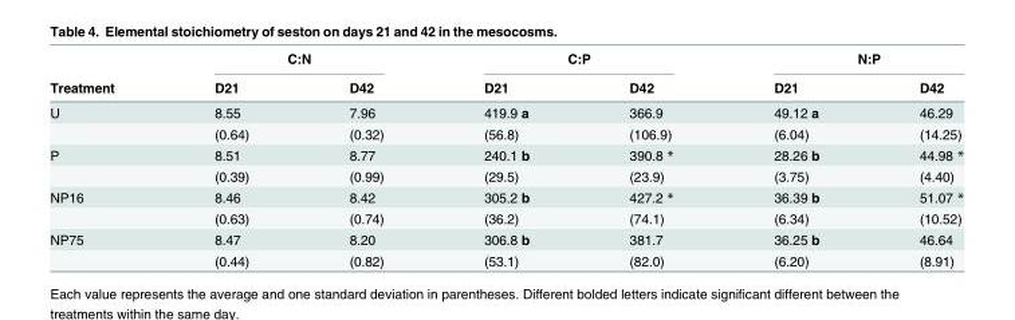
<table><thead><tr><td rowspan="2">Treatment</td><td colspan="2">C:N</td><td colspan="2">C:P</td><td colspan="2">N:P</td></tr><tr><td>D21</td><td>D42</td><td>D21</td><td>D42</td><td>D21</td><td>D42</td></tr></thead><tbody><tr><td rowspan="2">U</td><td>8.55</td><td>7.96</td><td>419.9 a</td><td>366.9</td><td>49.12 a</td><td>46.29</td></tr><tr><td>(0.64)</td><td>(0.32)</td><td>(56.8)</td><td>(106.9)</td><td>(6.04)</td><td>(14.25)</td></tr><tr><td rowspan="2">P</td><td>8.51</td><td>8.77</td><td>240.1 b</td><td>390.8 *</td><td>28.26 b</td><td>44.98 *</td></tr><tr><td>(0.39)</td><td>(0.99)</td><td>(29.5)</td><td>(23.9)</td><td>(3.75)</td><td>(4.40)</td></tr><tr><td rowspan="2">NP16</td><td>8.46</td><td>8.42</td><td>305.2 b</td><td>427.2 *</td><td>36.39 b</td><td>51.07 *</td></tr><tr><td>(0.63)</td><td>(0.74)</td><td>(36.2)</td><td>(74.1)</td><td>(6.34)</td><td>(10.52)</td></tr><tr><td rowspan="2">NP75</td><td>8.47</td><td>8.20</td><td>306.8 b</td><td>381.7</td><td>36.25 b</td><td>46.64</td></tr><tr><td>(0.44)</td><td>(0.82)</td><td>(53.1)</td><td>(82.0)</td><td>(6.20)</td><td>(8.91)</td></tr></tbody></table>